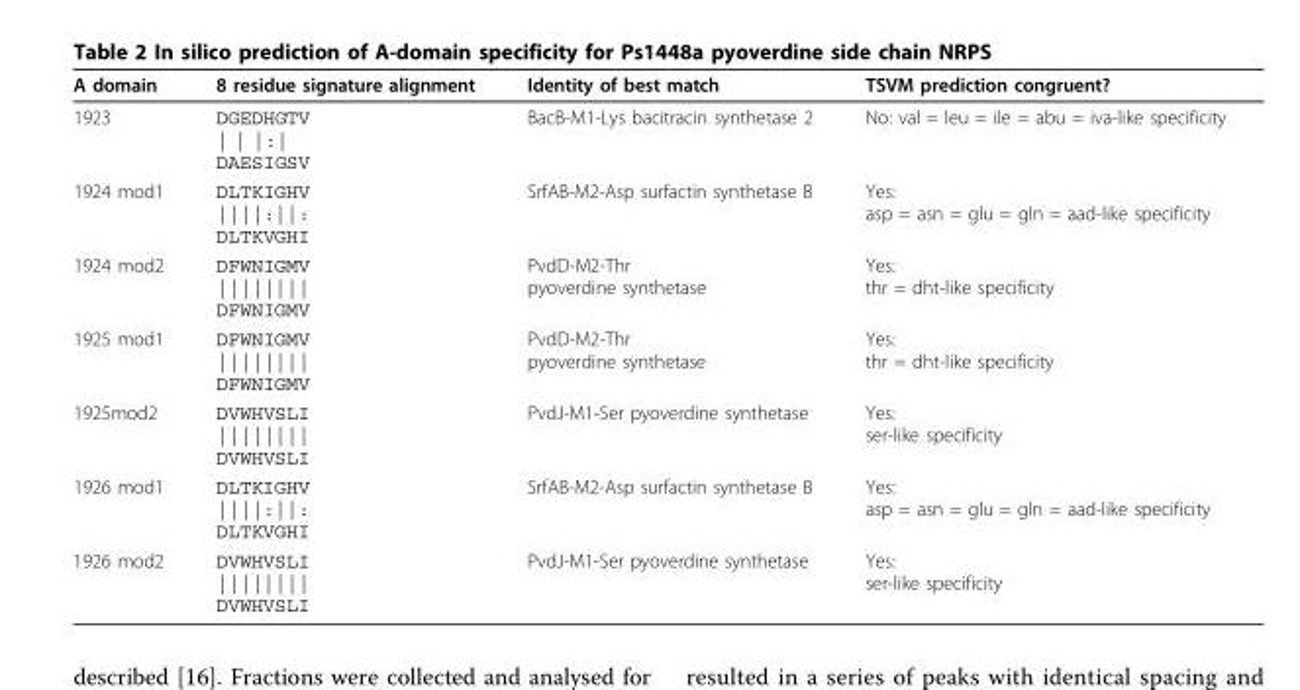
<table><thead><tr><td>A domain</td><td>8 residue signature alignment</td><td>Identity of best match</td><td>TSVM prediction congruent?</td></tr></thead><tbody><tr><td>1923</td><td>DGEDHGTV | | |:| DAESIGSV</td><td>BacB-M1-Lys bacitracin synthetase 2</td><td>No: val = leu = ile = abu = iva-like specificity</td></tr><tr><td>1924 mod1</td><td>DLTKIGHV ||||:||: DLTKVGHI</td><td>SrfAB-M2-Asp surfactin synthetase B</td><td>Yes: asp = asn = glu = gln = aad-like specificity</td></tr><tr><td>1924 mod2</td><td>DFWNIGMV |||||||| DFWNIGMV</td><td>PvdD-M2-Thr pyoverdine synthetase</td><td>Yes: thr = dht-like specificity</td></tr><tr><td>1925 mod1</td><td>DFWNIGMV |||||||| DFWNIGMV</td><td>PvdD-M2-Thr pyoverdine synthetase</td><td>Yes: thr = dht-like specificity</td></tr><tr><td>1925mod2</td><td>DVWHVSLI |||||||| DVWHVSLI</td><td>PvdJ-M1-Ser pyoverdine synthetase</td><td>Yes: ser-like specificity</td></tr><tr><td>1926 mod1</td><td>DLTKIGHV ||||:||: DLTKVGHI</td><td>SrfAB-M2-Asp surfactin synthetase B</td><td>Yes: asp = asn = glu = gln = aad-like specificity</td></tr><tr><td>1926 mod2</td><td>DVWHVSLI |||||||| DVWHVSLI</td><td>PvdJ-M1-Ser pyoverdine synthetase</td><td>Yes: ser-like specificity</td></tr></tbody></table>